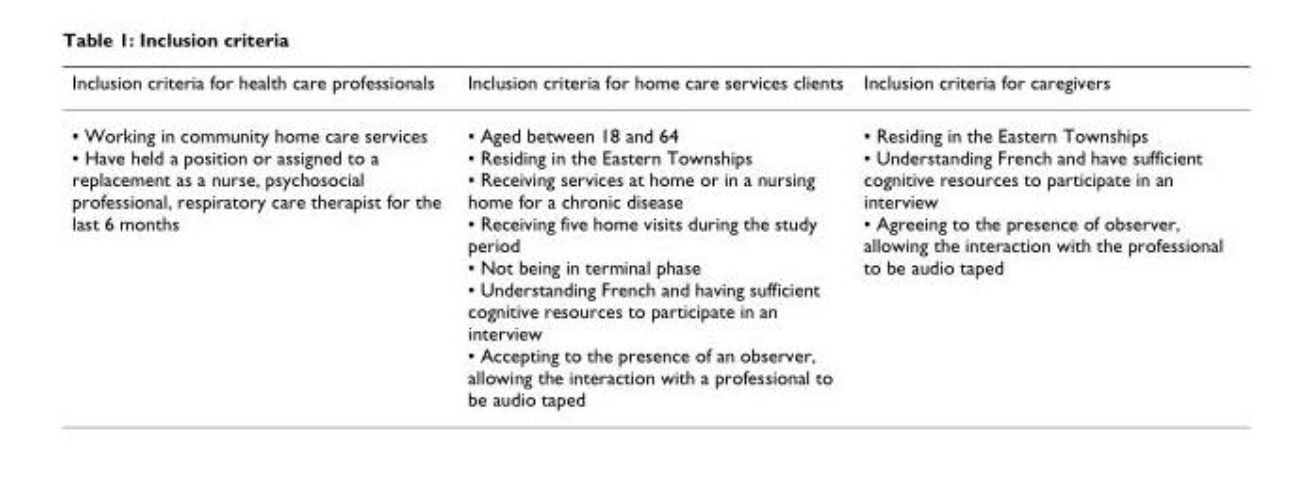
<table><thead><tr><td>Inclusion criteria for health care professionals</td><td>Inclusion criteria for home care services clients</td><td>Inclusion criteria for caregivers</td></tr></thead><tbody><tr><td>▪ Working in community home care services ▪ Have held a position or assigned to a replacement as a nurse, psychosocial professional, respiratory care therapist for the last 6 months</td><td>▪ Aged between 18 and 64 ▪ Residing in the Eastern Townships ▪ Receiving services at home or in a nursing home for a chronic disease ▪ Receiving five home visits during the study period ▪ Not being in terminal phase ▪ Understanding French and having sufficient cognitive resources to participate in an interview ▪ Accepting to the presence of an observer, allowing the interaction with a professional to be audio taped</td><td>▪ Residing in the Eastern Townships ▪ Understanding French and have sufficient cognitive resources to participate in an interview ▪ Agreeing to the presence of observer, allowing the interaction with the professional to be audio taped</td></tr></tbody></table>